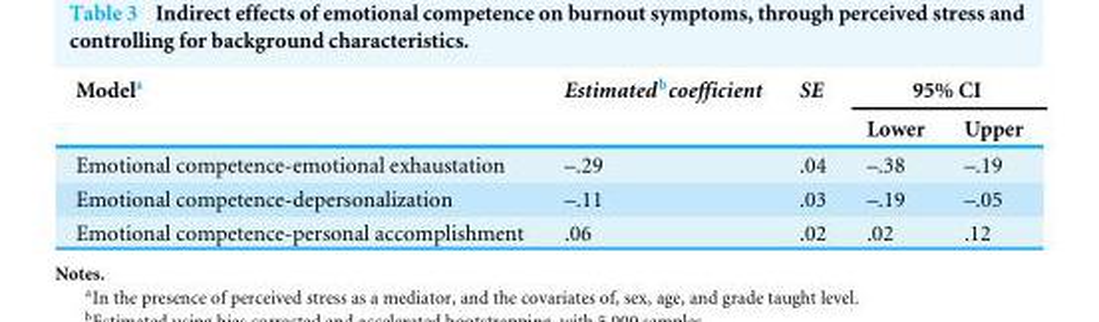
<table><thead><tr><td rowspan="2">Model<sup>a</sup></td><td rowspan="2">Estimated<sup>b</sup>coefficient</td><td rowspan="2">SE</td><td colspan="2">95% CI</td></tr><tr><td>Lower</td><td>Upper</td></tr></thead><tbody><tr><td>Emotional competence-emotional exhaustation</td><td>–.29</td><td>.04</td><td>–.38</td><td>–.19</td></tr><tr><td>Emotional competence-depersonalization</td><td>–.11</td><td>.03</td><td>–.19</td><td>–.05</td></tr><tr><td>Emotional competence-personal accomplishment</td><td>.06</td><td>.02</td><td>.02</td><td>.12</td></tr></tbody></table>